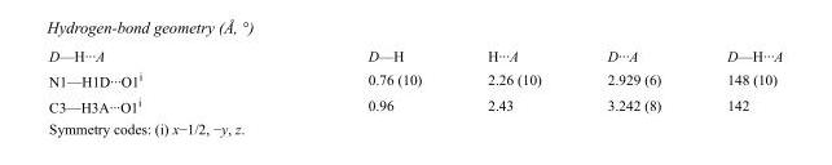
<table><tbody><tr><td>D—H···A</td><td>D—H</td><td>H···A</td><td>D···A</td><td>D—H···A</td></tr><tr><td>N1—H1D···O1<sup>i</sup></td><td>0.76 (10)</td><td>2.26 (10)</td><td>2.929 (6)</td><td>148 (10)</td></tr><tr><td>C3—H3A···O1<sup>i</sup></td><td>0.96</td><td>2.43</td><td>3.242 (8)</td><td>142</td></tr></tbody></table>